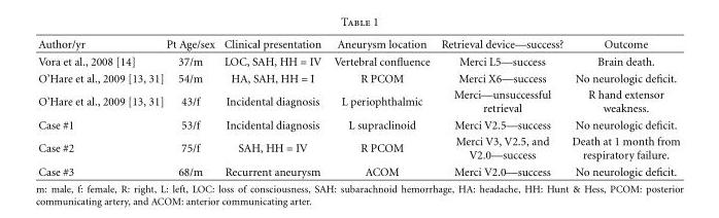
<table><thead><tr><td>Author/yr</td><td>Pt Age/sex</td><td>Clinical presentation</td><td>Aneurysm location</td><td>Retrieval device—success?</td><td>Outcome</td></tr></thead><tbody><tr><td>Vora et al., 2008 [14]</td><td>37/m</td><td>LOC, SAH, HH = IV</td><td>Vertebral confluence</td><td>Merci L5—success</td><td>Brain death.</td></tr><tr><td>O’Hare et al., 2009 [13, 31]</td><td>54/m</td><td>HA, SAH, HH = I</td><td>R PCOM</td><td>Merci X6—success</td><td>No neurologic deficit.</td></tr><tr><td>O’Hare et al., 2009 [13, 31]</td><td>43/f</td><td>Incidental diagnosis</td><td>L periophthalmic</td><td>Merci—unsuccessful retrieval</td><td>R hand extensor weakness.</td></tr><tr><td>Case #1</td><td>53/f</td><td>Incidental diagnosis</td><td>L supraclinoid</td><td>Merci V2.5—success</td><td>No neurologic deficit.</td></tr><tr><td>Case #2</td><td>75/f</td><td>SAH, HH = IV</td><td>R PCOM</td><td>Merci V3, V2.5, and V2.0—success</td><td>Death at 1 month from respiratory failure.</td></tr><tr><td>Case #3</td><td>68/m</td><td>Recurrent aneurysm</td><td>ACOM</td><td>Merci V2.0—success</td><td>No neurologic deficit.</td></tr></tbody></table>